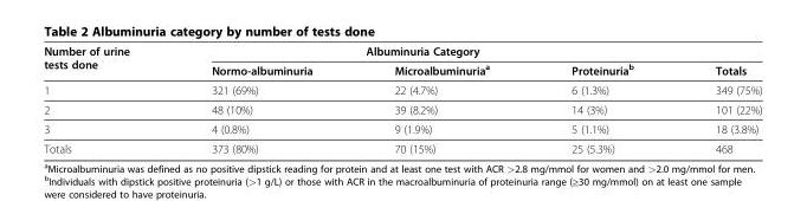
<table><thead><tr><td rowspan="2">Number of urine tests done</td><td colspan="3">Albuminuria Category</td><td rowspan="2">Totals</td></tr><tr><td>Normo-albuminuria</td><td>Microalbuminuria<sup>a</sup></td><td>Proteinuria<sup>b</sup></td></tr></thead><tbody><tr><td>1</td><td>321 (69%)</td><td>22 (4.7%)</td><td>6 (1.3%)</td><td>349 (75%)</td></tr><tr><td>2</td><td>48 (10%)</td><td>39 (8.2%)</td><td>14 (3%)</td><td>101 (22%)</td></tr><tr><td>3</td><td>4 (0.8%)</td><td>9 (1.9%)</td><td>5 (1.1%)</td><td>18 (3.8%)</td></tr><tr><td>Totals</td><td>373 (80%)</td><td>70 (15%)</td><td>25 (5.3%)</td><td>468</td></tr></tbody></table>